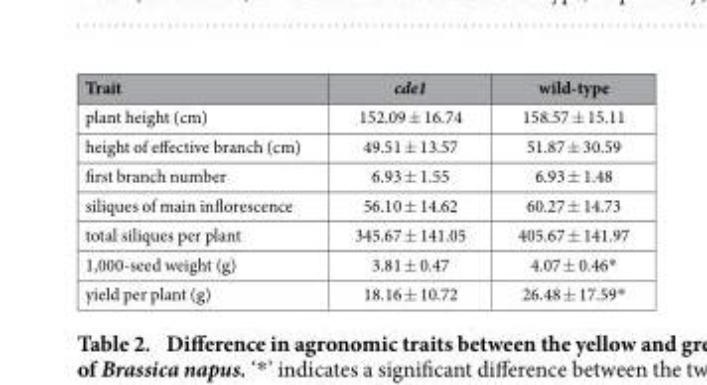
<table><thead><tr><td>Trait</td><td>cde1</td><td>wild-type</td></tr></thead><tbody><tr><td>plant height (cm)</td><td>152.09 ± 16.74</td><td>158.57 ± 15.11</td></tr><tr><td>height of effective branch (cm)</td><td>49.51 ± 13.57</td><td>51.87 ± 30.59</td></tr><tr><td>first branch number</td><td>6.93 ± 1.55</td><td>6.93 ± 1.48</td></tr><tr><td>siliques of main inflorescence</td><td>56.10 ± 14.62</td><td>60.27 ± 14.73</td></tr><tr><td>total siliques per plant</td><td>345.67 ± 141.05</td><td>405.67 ± 141.97</td></tr><tr><td>1,000-seed weight (g)</td><td>3.81 ± 0.47</td><td>4.07 ± 0.46*</td></tr><tr><td>yield per plant (g)</td><td>18.16 ± 10.72</td><td>26.48 ± 17.59*</td></tr></tbody></table>